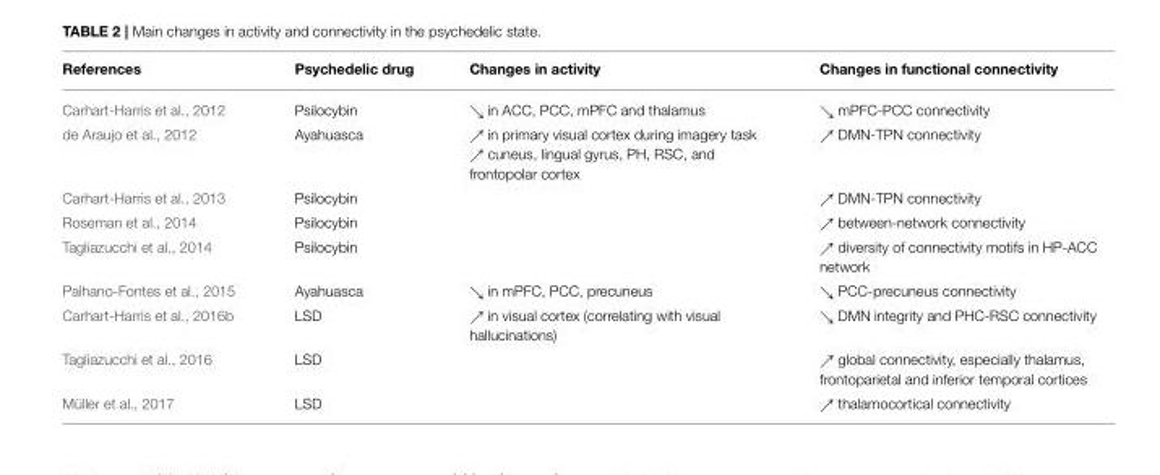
<table><thead><tr><td>References</td><td>Psychedelic drug</td><td>Changes in activity</td><td>Changes in functional connectivity</td></tr></thead><tbody><tr><td>Carhart-Harris et al., 2012</td><td>Psilocybin</td><td>ց in ACC, PCC, mPFC and thalamus</td><td>ց mPFC-PCC connectivity</td></tr><tr><td>de Araujo et al., 2012</td><td>Ayahuasca</td><td>ր in primary visual cortex during imagery task ր cuneus, lingual gyrus, PH, RSC, and frontopolar cortex</td><td>ր DMN-TPN connectivity</td></tr><tr><td>Carhart-Harris et al., 2013</td><td>Psilocybin</td><td></td><td>ր DMN-TPN connectivity</td></tr><tr><td>Roseman et al., 2014</td><td>Psilocybin</td><td></td><td>ր between-network connectivity</td></tr><tr><td>Tagliazucchi et al., 2014</td><td>Psilocybin</td><td></td><td>ր diversity of connectivity motifs in HP-ACC network</td></tr><tr><td>Palhano-Fontes et al., 2015</td><td>Ayahuasca</td><td>ց in mPFC, PCC, precuneus</td><td>ց PCC-precuneus connectivity</td></tr><tr><td>Carhart-Harris et al., 2016b</td><td>LSD</td><td>ր in visual cortex (correlating with visual hallucinations)</td><td>ց DMN integrity and PHC-RSC connectivity</td></tr><tr><td>Tagliazucchi et al., 2016</td><td>LSD</td><td></td><td>ր global connectivity, especially thalamus, frontoparietal and inferior temporal cortices</td></tr><tr><td>Müller et al., 2017</td><td>LSD</td><td></td><td>ր thalamocortical connectivity</td></tr></tbody></table>